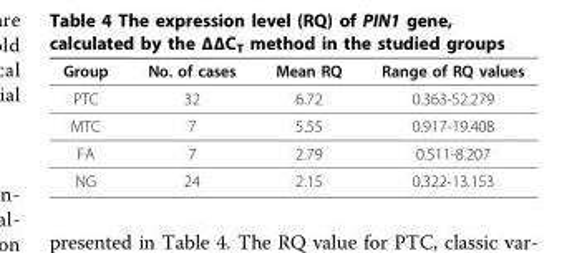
<table><thead><tr><td>Group</td><td>No. of cases</td><td>Mean RQ</td><td>Range of RQ values</td></tr></thead><tbody><tr><td>PTC</td><td>32</td><td>6.72</td><td>0.363-52.279</td></tr><tr><td>MTC</td><td>7</td><td>5.55</td><td>0.917-19.408</td></tr><tr><td>FA</td><td>7</td><td>2.79</td><td>0.511-8.207</td></tr><tr><td>NG</td><td>24</td><td>2.15</td><td>0.322-13.153</td></tr></tbody></table>